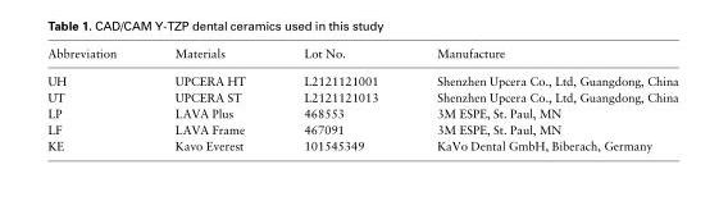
<table><thead><tr><td>Abbreviation</td><td>Materials</td><td>Lot No.</td><td>Manufacture</td></tr></thead><tbody><tr><td>UH</td><td>UPCERA HT</td><td>L2121121001</td><td>Shenzhen Upcera Co., Ltd, Guangdong, China</td></tr><tr><td>UT</td><td>UPCERA ST</td><td>L2121121013</td><td>Shenzhen Upcera Co., Ltd, Guangdong, China</td></tr><tr><td>LP</td><td>LAVA Plus</td><td>468553</td><td>3M ESPE, St. Paul, MN</td></tr><tr><td>LF</td><td>LAVA Frame</td><td>467091</td><td>3M ESPE, St. Paul, MN</td></tr><tr><td>KE</td><td>Kavo Everest</td><td>101545349</td><td>KaVo Dental GmbH, Biberach, Germany</td></tr></tbody></table>